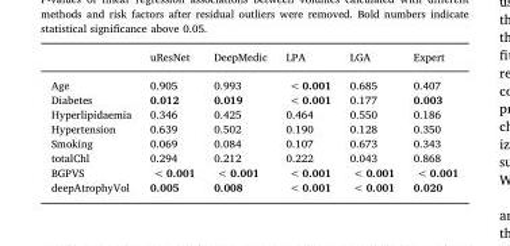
<table><thead><tr><td></td><td>uResNet</td><td>DeepMedic</td><td>LPA</td><td>LGA</td><td>Expert</td></tr></thead><tbody><tr><td>Age</td><td>0.905</td><td>0.993</td><td>&lt; 0.001</td><td>0.685</td><td>0.407</td></tr><tr><td>Diabetes</td><td>0.012</td><td>0.019</td><td>&lt; 0.001</td><td>0.177</td><td>0.003</td></tr><tr><td>Hyperlipidaemia</td><td>0.346</td><td>0.425</td><td>0.464</td><td>0.550</td><td>0.186</td></tr><tr><td>Hypertension</td><td>0.639</td><td>0.502</td><td>0.190</td><td>0.128</td><td>0.350</td></tr><tr><td>Smoking</td><td>0.069</td><td>0.084</td><td>0.107</td><td>0.673</td><td>0.343</td></tr><tr><td>totalChl</td><td>0.294</td><td>0.212</td><td>0.222</td><td>0.043</td><td>0.868</td></tr><tr><td>BGPVS</td><td>&lt; 0.001</td><td>&lt; 0.001</td><td>&lt; 0.001</td><td>&lt; 0.001</td><td>&lt; 0.001</td></tr><tr><td>deepAtrophyVol</td><td>0.005</td><td>0.008</td><td>&lt; 0.001</td><td>&lt; 0.001</td><td>0.020</td></tr></tbody></table>